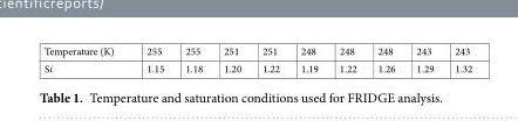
<table><tbody><tr><td>Temperature (K)</td><td>255</td><td>255</td><td>251</td><td>251</td><td>248</td><td>248</td><td>248</td><td>243</td><td>243</td></tr><tr><td>Si</td><td>1.15</td><td>1.18</td><td>1.20</td><td>1.22</td><td>1.19</td><td>1.22</td><td>1.26</td><td>1.29</td><td>1.32</td></tr></tbody></table>